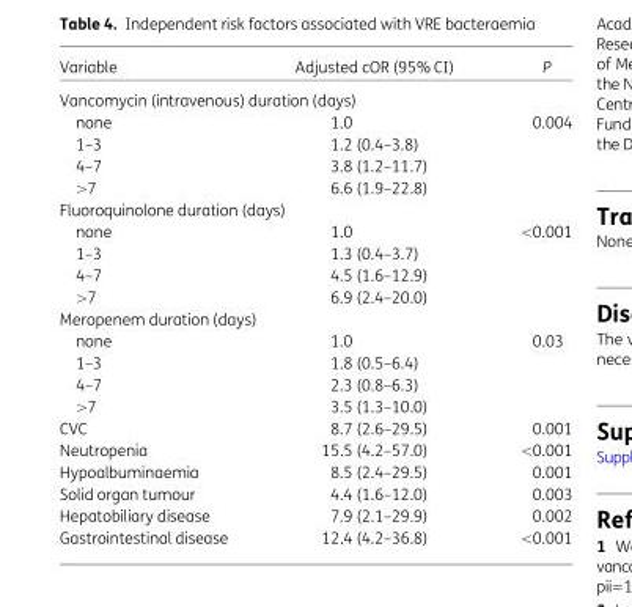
<table><thead><tr><td>Variable</td><td>Adjusted cOR (95% CI)</td><td>P</td></tr></thead><tbody><tr><td colspan="3">Vancomycin (intravenous) duration (days)</td></tr><tr><td>none</td><td>1.0</td><td>0.004</td></tr><tr><td>1–3</td><td>1.2 (0.4–3.8)</td><td></td></tr><tr><td>4–7</td><td>3.8 (1.2–11.7)</td><td></td></tr><tr><td>&gt;7</td><td>6.6 (1.9–22.8)</td><td></td></tr><tr><td colspan="3">Fluoroquinolone duration (days)</td></tr><tr><td>none</td><td>1.0</td><td>&lt;0.001</td></tr><tr><td>1–3</td><td>1.3 (0.4–3.7)</td><td></td></tr><tr><td>4–7</td><td>4.5 (1.6–12.9)</td><td></td></tr><tr><td>&gt;7</td><td>6.9 (2.4–20.0)</td><td></td></tr><tr><td colspan="3">Meropenem duration (days)</td></tr><tr><td>none</td><td>1.0</td><td>0.03</td></tr><tr><td>1–3</td><td>1.8 (0.5–6.4)</td><td></td></tr><tr><td>4–7</td><td>2.3 (0.8–6.3)</td><td></td></tr><tr><td>&gt;7</td><td>3.5 (1.3–10.0)</td><td></td></tr><tr><td>CVC</td><td>8.7 (2.6–29.5)</td><td>0.001</td></tr><tr><td>Neutropenia</td><td>15.5 (4.2–57.0)</td><td>&lt;0.001</td></tr><tr><td>Hypoalbuminaemia</td><td>8.5 (2.4–29.5)</td><td>0.001</td></tr><tr><td>Solid organ tumour</td><td>4.4 (1.6–12.0)</td><td>0.003</td></tr><tr><td>Hepatobiliary disease</td><td>7.9 (2.1–29.9)</td><td>0.002</td></tr><tr><td>Gastrointestinal disease</td><td>12.4 (4.2–36.8)</td><td>&lt;0.001</td></tr></tbody></table>